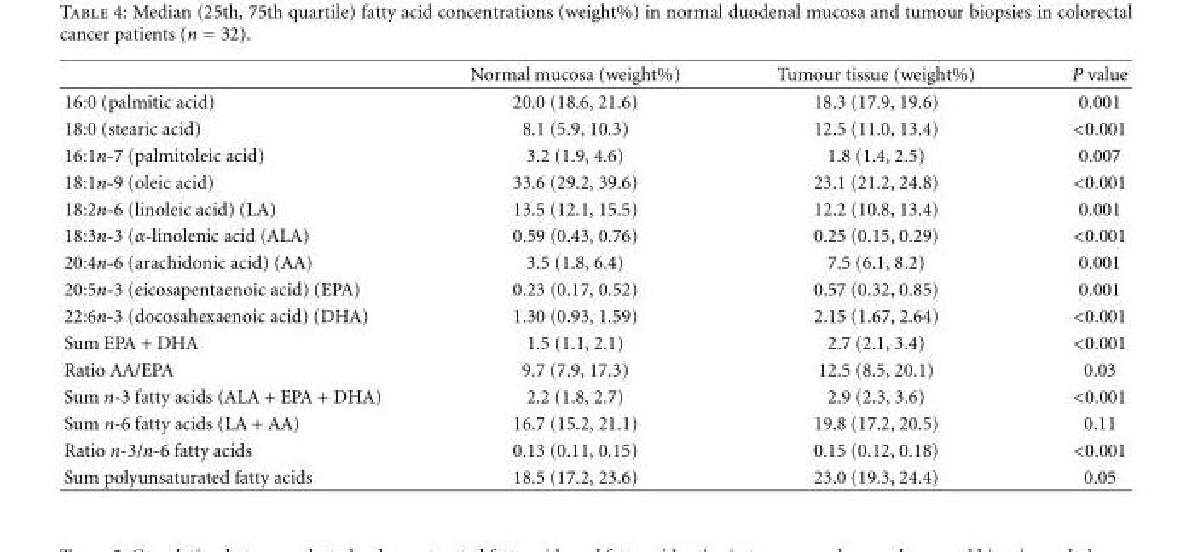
<table><thead><tr><td></td><td>Normal mucosa (weight%)</td><td>Tumour tissue (weight%)</td><td>P value</td></tr></thead><tbody><tr><td>16:0 (palmitic acid)</td><td>20.0 (18.6, 21.6)</td><td>18.3 (17.9, 19.6)</td><td>0.001</td></tr><tr><td>18:0 (stearic acid)</td><td>8.1 (5.9, 10.3)</td><td>12.5 (11.0, 13.4)</td><td>&lt;0.001</td></tr><tr><td>16:1n-7 (palmitoleic acid)</td><td>3.2 (1.9, 4.6)</td><td>1.8 (1.4, 2.5)</td><td>0.007</td></tr><tr><td>18:1n-9 (oleic acid)</td><td>33.6 (29.2, 39.6)</td><td>23.1 (21.2, 24.8)</td><td>&lt;0.001</td></tr><tr><td>18:2n-6 (linoleic acid) (LA)</td><td>13.5 (12.1, 15.5)</td><td>12.2 (10.8, 13.4)</td><td>0.001</td></tr><tr><td>18:3n-3 (α-linolenic acid (ALA)</td><td>0.59 (0.43, 0.76)</td><td>0.25 (0.15, 0.29)</td><td>&lt;0.001</td></tr><tr><td>20:4n-6 (arachidonic acid) (AA)</td><td>3.5 (1.8, 6.4)</td><td>7.5 (6.1, 8.2)</td><td>0.001</td></tr><tr><td>20:5n-3 (eicosapentaenoic acid) (EPA)</td><td>0.23 (0.17, 0.52)</td><td>0.57 (0.32, 0.85)</td><td>0.001</td></tr><tr><td>22:6n-3 (docosahexaenoic acid) (DHA)</td><td>1.30 (0.93, 1.59)</td><td>2.15 (1.67, 2.64)</td><td>&lt;0.001</td></tr><tr><td>Sum EPA + DHA</td><td>1.5 (1.1, 2.1)</td><td>2.7 (2.1, 3.4)</td><td>&lt;0.001</td></tr><tr><td>Ratio AA/EPA</td><td>9.7 (7.9, 17.3)</td><td>12.5 (8.5, 20.1)</td><td>0.03</td></tr><tr><td>Sum n-3 fatty acids (ALA + EPA + DHA)</td><td>2.2 (1.8, 2.7)</td><td>2.9 (2.3, 3.6)</td><td>&lt;0.001</td></tr><tr><td>Sum n-6 fatty acids (LA + AA)</td><td>16.7 (15.2, 21.1)</td><td>19.8 (17.2, 20.5)</td><td>0.11</td></tr><tr><td>Ratio n-3/n-6 fatty acids</td><td>0.13 (0.11, 0.15)</td><td>0.15 (0.12, 0.18)</td><td>&lt;0.001</td></tr><tr><td>Sum polyunsaturated fatty acids</td><td>18.5 (17.2, 23.6)</td><td>23.0 (19.3, 24.4)</td><td>0.05</td></tr></tbody></table>